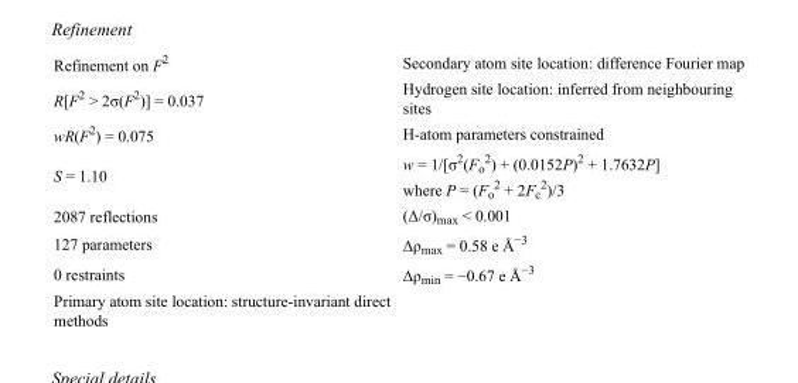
<table><tbody><tr><td>Refinement on F<sup>2</sup></td><td>Secondary atom site location: difference Fourier map</td></tr><tr><td>R[F<sup>2</sup> &gt; 2σ(F<sup>2</sup>)] = 0.037</td><td>Hydrogen site location: inferred from neighbouring sites</td></tr><tr><td>wR(F<sup>2</sup>) = 0.075</td><td>H-atom parameters constrained</td></tr><tr><td>S = 1.10</td><td>w = 1/[σ<sup>2</sup>(F<sub>o</sub> <sup>2</sup>) + (0.0152P)<sup>2</sup> + 1.7632P] where P = (F<sub>o</sub> <sup>2</sup> + 2F<sub>c</sub> <sup>2</sup>)/3</td></tr><tr><td>2087 reflections</td><td>(Δ/σ)<sub>max</sub> &lt; 0.001</td></tr><tr><td>127 parameters</td><td>Δρ<sub>max</sub> = 0.58 e Å<sup>−3</sup></td></tr><tr><td>0 restraints</td><td>Δρ<sub>min</sub> = −0.67 e Å<sup>−3</sup></td></tr><tr><td>Primary atom site location: structure-invariant direct methods</td><td></td></tr></tbody></table>